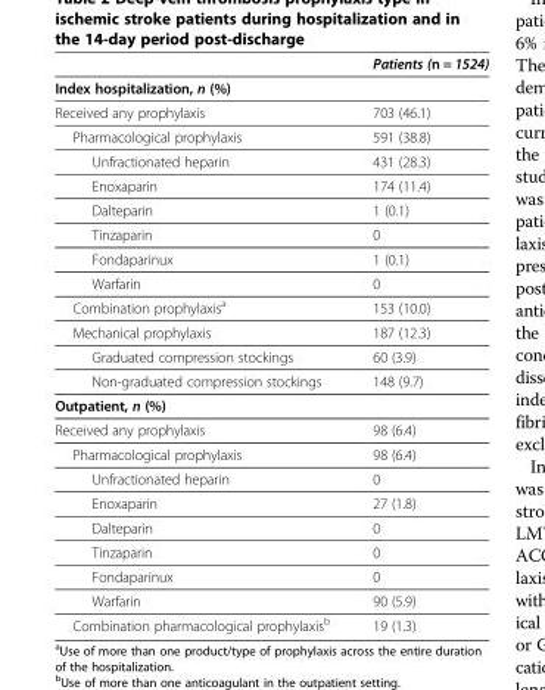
<table><thead><tr><td></td><td>Patients (n = 1524)</td></tr></thead><tbody><tr><td colspan="2">Index hospitalization, n (%)</td></tr><tr><td>Received any prophylaxis</td><td>703 (46.1)</td></tr><tr><td>Pharmacological prophylaxis</td><td>591 (38.8)</td></tr><tr><td>Unfractionated heparin</td><td>431 (28.3)</td></tr><tr><td>Enoxaparin</td><td>174 (11.4)</td></tr><tr><td>Dalteparin</td><td>1 (0.1)</td></tr><tr><td>Tinzaparin</td><td>0</td></tr><tr><td>Fondaparinux</td><td>1 (0.1)</td></tr><tr><td>Warfarin</td><td>0</td></tr><tr><td>Combination prophylaxis<sup>a</sup></td><td>153 (10.0)</td></tr><tr><td>Mechanical prophylaxis</td><td>187 (12.3)</td></tr><tr><td>Graduated compression stockings</td><td>60 (3.9)</td></tr><tr><td>Non-graduated compression stockings</td><td>148 (9.7)</td></tr><tr><td colspan="2">Outpatient, n (%)</td></tr><tr><td>Received any prophylaxis</td><td>98 (6.4)</td></tr><tr><td>Pharmacological prophylaxis</td><td>98 (6.4)</td></tr><tr><td>Unfractionated heparin</td><td>0</td></tr><tr><td>Enoxaparin</td><td>27 (1.8)</td></tr><tr><td>Dalteparin</td><td>0</td></tr><tr><td>Tinzaparin</td><td>0</td></tr><tr><td>Fondaparinux</td><td>0</td></tr><tr><td>Warfarin</td><td>90 (5.9)</td></tr><tr><td>Combination pharmacological prophylaxis<sup>b</sup></td><td>19 (1.3)</td></tr></tbody></table>